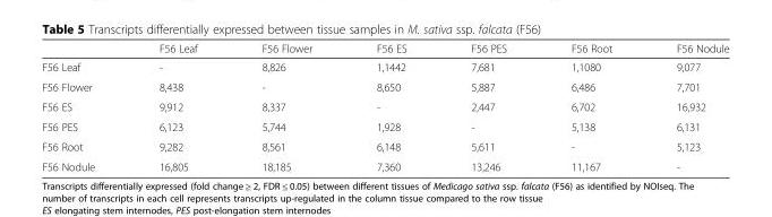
<table><thead><tr><td></td><td>F56 Leaf</td><td>F56 Flower</td><td>F56 ES</td><td>F56 PES</td><td>F56 Root</td><td>F56 Nodule</td></tr></thead><tbody><tr><td>F56 Leaf</td><td>-</td><td>8,826</td><td>1,1442</td><td>7,681</td><td>1,1080</td><td>9,077</td></tr><tr><td>F56 Flower</td><td>8,438</td><td>-</td><td>8,650</td><td>5,887</td><td>6,486</td><td>7,701</td></tr><tr><td>F56 ES</td><td>9,912</td><td>8,337</td><td>-</td><td>2,447</td><td>6,702</td><td>16,932</td></tr><tr><td>F56 PES</td><td>6,123</td><td>5,744</td><td>1,928</td><td>-</td><td>5,138</td><td>6,131</td></tr><tr><td>F56 Root</td><td>9,282</td><td>8,561</td><td>6,148</td><td>5,611</td><td>-</td><td>5,123</td></tr><tr><td>F56 Nodule</td><td>16,805</td><td>18,185</td><td>7,360</td><td>13,246</td><td>11,167</td><td>-</td></tr></tbody></table>